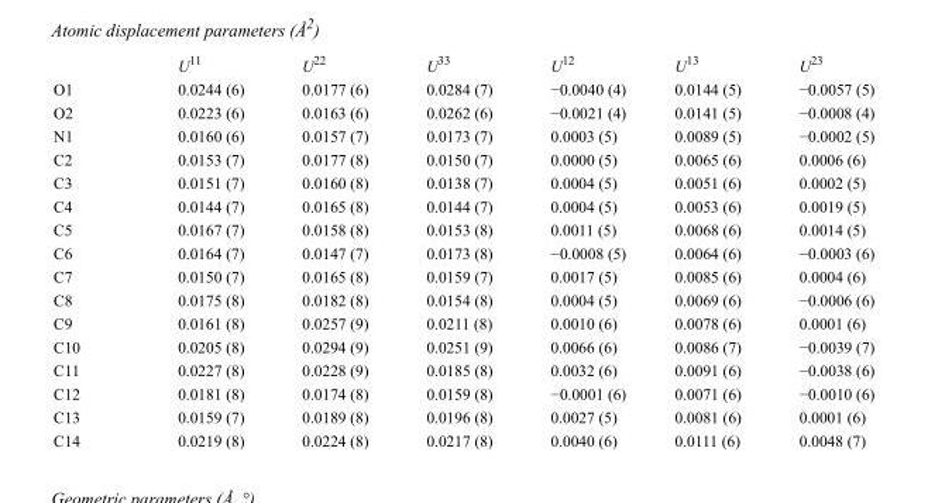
<table><thead><tr><td></td><td>U<sup>11</sup></td><td>U<sup>22</sup></td><td>U<sup>33</sup></td><td>U<sup>12</sup></td><td>U<sup>13</sup></td><td>U<sup>23</sup></td></tr></thead><tbody><tr><td>O1</td><td>0.0244 (6)</td><td>0.0177 (6)</td><td>0.0284 (7)</td><td>−0.0040 (4)</td><td>0.0144 (5)</td><td>−0.0057 (5)</td></tr><tr><td>O2</td><td>0.0223 (6)</td><td>0.0163 (6)</td><td>0.0262 (6)</td><td>−0.0021 (4)</td><td>0.0141 (5)</td><td>−0.0008 (4)</td></tr><tr><td>N1</td><td>0.0160 (6)</td><td>0.0157 (7)</td><td>0.0173 (7)</td><td>0.0003 (5)</td><td>0.0089 (5)</td><td>−0.0002 (5)</td></tr><tr><td>C2</td><td>0.0153 (7)</td><td>0.0177 (8)</td><td>0.0150 (7)</td><td>0.0000 (5)</td><td>0.0065 (6)</td><td>0.0006 (6)</td></tr><tr><td>C3</td><td>0.0151 (7)</td><td>0.0160 (8)</td><td>0.0138 (7)</td><td>0.0004 (5)</td><td>0.0051 (6)</td><td>0.0002 (5)</td></tr><tr><td>C4</td><td>0.0144 (7)</td><td>0.0165 (8)</td><td>0.0144 (7)</td><td>0.0004 (5)</td><td>0.0053 (6)</td><td>0.0019 (5)</td></tr><tr><td>C5</td><td>0.0167 (7)</td><td>0.0158 (8)</td><td>0.0153 (8)</td><td>0.0011 (5)</td><td>0.0068 (6)</td><td>0.0014 (5)</td></tr><tr><td>C6</td><td>0.0164 (7)</td><td>0.0147 (7)</td><td>0.0173 (8)</td><td>−0.0008 (5)</td><td>0.0064 (6)</td><td>−0.0003 (6)</td></tr><tr><td>C7</td><td>0.0150 (7)</td><td>0.0165 (8)</td><td>0.0159 (7)</td><td>0.0017 (5)</td><td>0.0085 (6)</td><td>0.0004 (6)</td></tr><tr><td>C8</td><td>0.0175 (8)</td><td>0.0182 (8)</td><td>0.0154 (8)</td><td>0.0004 (5)</td><td>0.0069 (6)</td><td>−0.0006 (6)</td></tr><tr><td>C9</td><td>0.0161 (8)</td><td>0.0257 (9)</td><td>0.0211 (8)</td><td>0.0010 (6)</td><td>0.0078 (6)</td><td>0.0001 (6)</td></tr><tr><td>C10</td><td>0.0205 (8)</td><td>0.0294 (9)</td><td>0.0251 (9)</td><td>0.0066 (6)</td><td>0.0086 (7)</td><td>−0.0039 (7)</td></tr><tr><td>C11</td><td>0.0227 (8)</td><td>0.0228 (9)</td><td>0.0185 (8)</td><td>0.0032 (6)</td><td>0.0091 (6)</td><td>−0.0038 (6)</td></tr><tr><td>C12</td><td>0.0181 (8)</td><td>0.0174 (8)</td><td>0.0159 (8)</td><td>−0.0001 (6)</td><td>0.0071 (6)</td><td>−0.0010 (6)</td></tr><tr><td>C13</td><td>0.0159 (7)</td><td>0.0189 (8)</td><td>0.0196 (8)</td><td>0.0027 (5)</td><td>0.0081 (6)</td><td>0.0001 (6)</td></tr><tr><td>C14</td><td>0.0219 (8)</td><td>0.0224 (8)</td><td>0.0217 (8)</td><td>0.0040 (6)</td><td>0.0111 (6)</td><td>0.0048 (7)</td></tr></tbody></table>